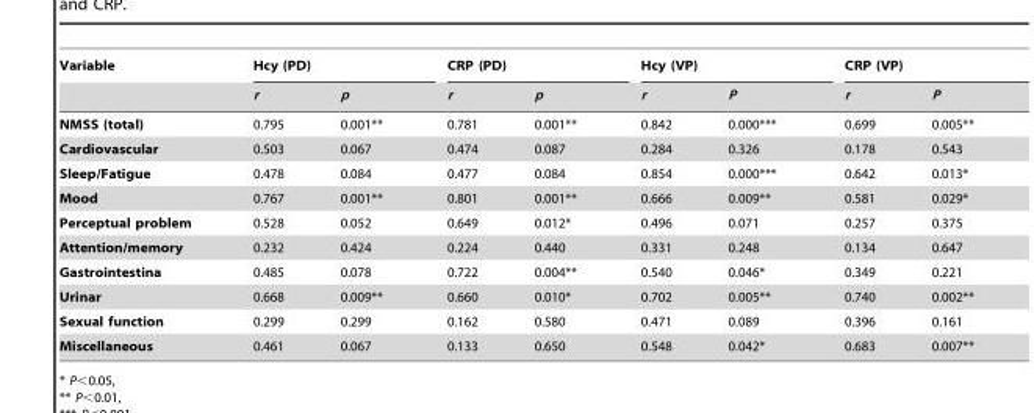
<table><thead><tr><td rowspan="2">Variable</td><td colspan="2">Hcy (PD)</td><td colspan="2">CRP (PD)</td><td colspan="2">Hcy (VP)</td><td colspan="2">CRP (VP)</td></tr><tr><td>r</td><td>p</td><td>r</td><td>p</td><td>r</td><td>P</td><td>r</td><td>P</td></tr></thead><tbody><tr><td>NMSS (total)</td><td>0.795</td><td>0.001**</td><td>0.781</td><td>0.001**</td><td>0.842</td><td>0.000***</td><td>0.699</td><td>0.005**</td></tr><tr><td>Cardiovascular</td><td>0.503</td><td>0.067</td><td>0.474</td><td>0.087</td><td>0.284</td><td>0.326</td><td>0.178</td><td>0.543</td></tr><tr><td>Sleep/Fatigue</td><td>0.478</td><td>0.084</td><td>0.477</td><td>0.084</td><td>0.854</td><td>0.000***</td><td>0.642</td><td>0.013*</td></tr><tr><td>Mood</td><td>0.767</td><td>0.001**</td><td>0.801</td><td>0.001**</td><td>0.666</td><td>0.009**</td><td>0.581</td><td>0.029*</td></tr><tr><td>Perceptual problem</td><td>0.528</td><td>0.052</td><td>0.649</td><td>0.012*</td><td>0.496</td><td>0.071</td><td>0.257</td><td>0.375</td></tr><tr><td>Attention/memory</td><td>0.232</td><td>0.424</td><td>0.224</td><td>0.440</td><td>0.331</td><td>0.248</td><td>0.134</td><td>0.647</td></tr><tr><td>Gastrointestina</td><td>0.485</td><td>0.078</td><td>0.722</td><td>0.004**</td><td>0.540</td><td>0.046*</td><td>0.349</td><td>0.221</td></tr><tr><td>Urinar</td><td>0.668</td><td>0.009**</td><td>0.660</td><td>0.010*</td><td>0.702</td><td>0.005**</td><td>0.740</td><td>0.002**</td></tr><tr><td>Sexual function</td><td>0.299</td><td>0.299</td><td>0.162</td><td>0.580</td><td>0.471</td><td>0.089</td><td>0.396</td><td>0.161</td></tr><tr><td>Miscellaneous</td><td>0.461</td><td>0.067</td><td>0.133</td><td>0.650</td><td>0.548</td><td>0.042*</td><td>0.683</td><td>0.007**</td></tr></tbody></table>